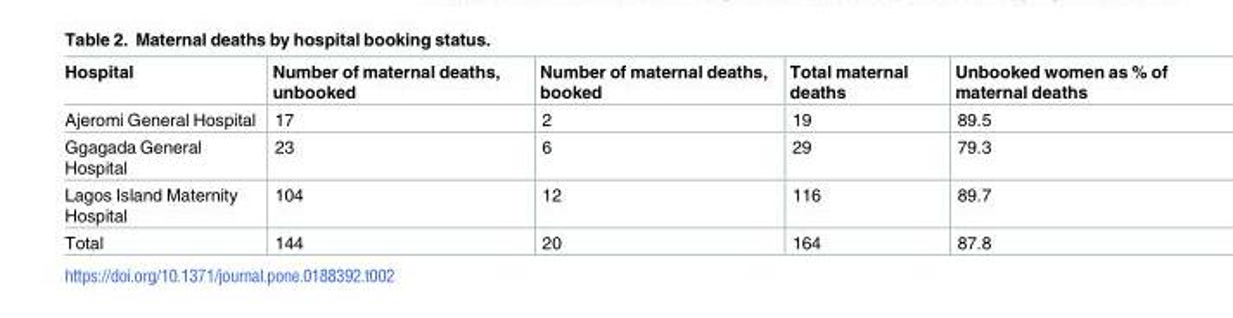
<table><thead><tr><td>Hospital</td><td>Number of maternal deaths, unbooked</td><td>Number of maternal deaths, booked</td><td>Total maternal deaths</td><td>Unbooked women as % of maternal deaths</td></tr></thead><tbody><tr><td>Ajeromi General Hospital</td><td>17</td><td>2</td><td>19</td><td>89.5</td></tr><tr><td>Ggagada General Hospital</td><td>23</td><td>6</td><td>29</td><td>79.3</td></tr><tr><td>Lagos Island Maternity Hospital</td><td>104</td><td>12</td><td>116</td><td>89.7</td></tr><tr><td>Total</td><td>144</td><td>20</td><td>164</td><td>87.8</td></tr></tbody></table>